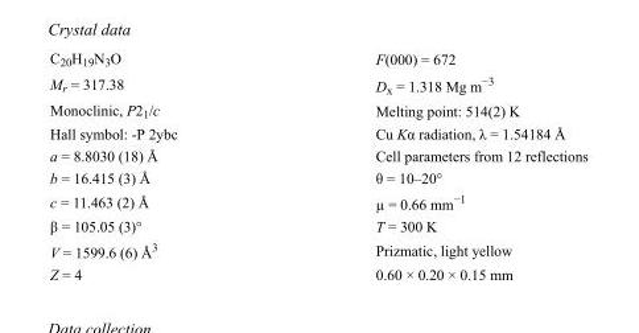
<table><tbody><tr><td>C<sub>20</sub>H<sub>19</sub>N<sub>3</sub>O</td><td>F(000) = 672</td></tr><tr><td>M<sub>r</sub> = 317.38</td><td>D<sub>x</sub> = 1.318 Mg m<sup>−3</sup></td></tr><tr><td>Monoclinic, P2<sub>1</sub>/c</td><td>Melting point: 514(2) K</td></tr><tr><td>Hall symbol: -P 2ybc</td><td>Cu Kα radiation, λ = 1.54184 Å</td></tr><tr><td>a = 8.8030 (18) Å</td><td>Cell parameters from 12 reflections</td></tr><tr><td>b = 16.415 (3) Å</td><td>θ = 10–20°</td></tr><tr><td>c = 11.463 (2) Å</td><td>µ = 0.66 mm<sup>−1</sup></td></tr><tr><td>β = 105.05 (3)°</td><td>T = 300 K</td></tr><tr><td>V = 1599.6 (6) Å<sup>3</sup></td><td>Prizmatic, light yellow</td></tr><tr><td>Z = 4</td><td>0.60 × 0.20 × 0.15 mm</td></tr></tbody></table>